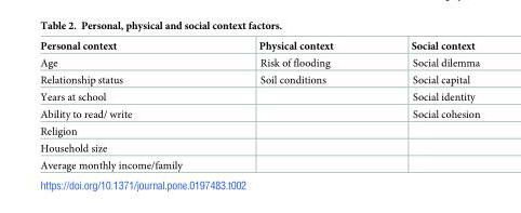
<table><thead><tr><td>Personal context</td><td>Physical context</td><td>Social context</td></tr></thead><tbody><tr><td>Age</td><td>Risk of flooding</td><td>Social dilemma</td></tr><tr><td>Relationship status</td><td>Soil conditions</td><td>Social capital</td></tr><tr><td>Years at school</td><td></td><td>Social identity</td></tr><tr><td>Ability to read/ write</td><td></td><td>Social cohesion</td></tr><tr><td colspan="3">Religion</td></tr><tr><td colspan="3">Household size</td></tr><tr><td>Average monthly income/family</td><td></td><td></td></tr></tbody></table>